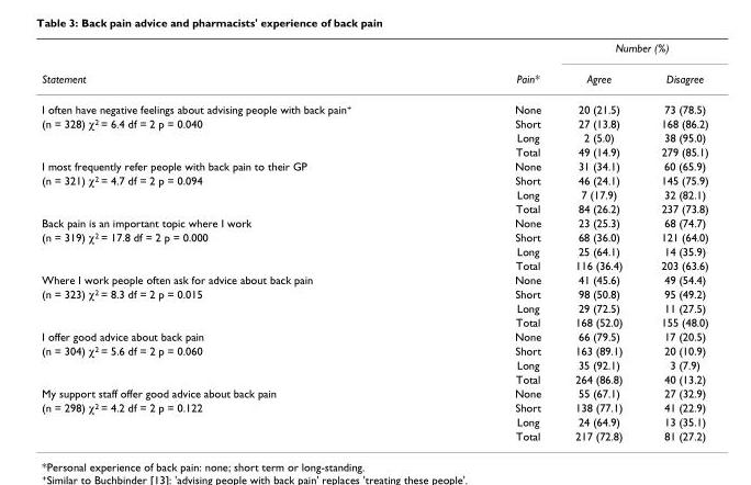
<table><thead><tr><td rowspan="2">Statement</td><td rowspan="2">Pain*</td><td colspan="2">Number (%)</td></tr><tr><td>Agree</td><td>Disagree</td></tr></thead><tbody><tr><td>I often have negative feelings about advising people with back pain+</td><td>None</td><td>20 (21.5)</td><td>73 (78.5)</td></tr><tr><td rowspan="3">(n = 328) χ2 = 6.4 df = 2 p = 0.040</td><td>Short</td><td>27 (13.8)</td><td>168 (86.2)</td></tr><tr><td>Long</td><td>2 (5.0)</td><td>38 (95.0)</td></tr><tr><td>Total</td><td>49 (14.9)</td><td>279 (85.1)</td></tr><tr><td>I most frequently refer people with back pain to their GP</td><td>None</td><td>31 (34.1)</td><td>60 (65.9)</td></tr><tr><td rowspan="3">(n = 321) χ2 = 4.7 df = 2 p = 0.094</td><td>Short</td><td>46 (24.1)</td><td>145 (75.9)</td></tr><tr><td>Long</td><td>7 (17.9)</td><td>32 (82.1)</td></tr><tr><td>Total</td><td>84 (26.2)</td><td>237 (73.8)</td></tr><tr><td>Back pain is an important topic where I work</td><td>None</td><td>23 (25.3)</td><td>68 (74.7)</td></tr><tr><td rowspan="3">(n = 319) χ2 = 17.8 df = 2 p = 0.000</td><td>Short</td><td>68 (36.0)</td><td>121 (64.0)</td></tr><tr><td>Long</td><td>25 (64.1)</td><td>14 (35.9)</td></tr><tr><td>Total</td><td>116 (36.4)</td><td>203 (63.6)</td></tr><tr><td>Where I work people often ask for advice about back pain</td><td>None</td><td>41 (45.6)</td><td>49 (54.4)</td></tr><tr><td rowspan="3">(n = 323) χ2 = 8.3 df = 2 p = 0.015</td><td>Short</td><td>98 (50.8)</td><td>95 (49.2)</td></tr><tr><td>Long</td><td>29 (72.5)</td><td>11 (27.5)</td></tr><tr><td>Total</td><td>168 (52.0)</td><td>155 (48.0)</td></tr><tr><td>I offer good advice about back pain</td><td>None</td><td>66 (79.5)</td><td>17 (20.5)</td></tr><tr><td rowspan="3">(n = 304) χ2 = 5.6 df = 2 p = 0.060</td><td>Short</td><td>163 (89.1)</td><td>20 (10.9)</td></tr><tr><td>Long</td><td>35 (92.1)</td><td>3 (7.9)</td></tr><tr><td>Total</td><td>264 (86.8)</td><td>40 (13.2)</td></tr><tr><td>My support staff offer good advice about back pain</td><td>None</td><td>55 (67.1)</td><td>27 (32.9)</td></tr><tr><td rowspan="3">(n = 298) χ2 = 4.2 df = 2 p = 0.122</td><td>Short</td><td>138 (77.1)</td><td>41 (22.9)</td></tr><tr><td>Long</td><td>24 (64.9)</td><td>13 (35.1)</td></tr><tr><td>Total</td><td>217 (72.8)</td><td>81 (27.2)</td></tr></tbody></table>